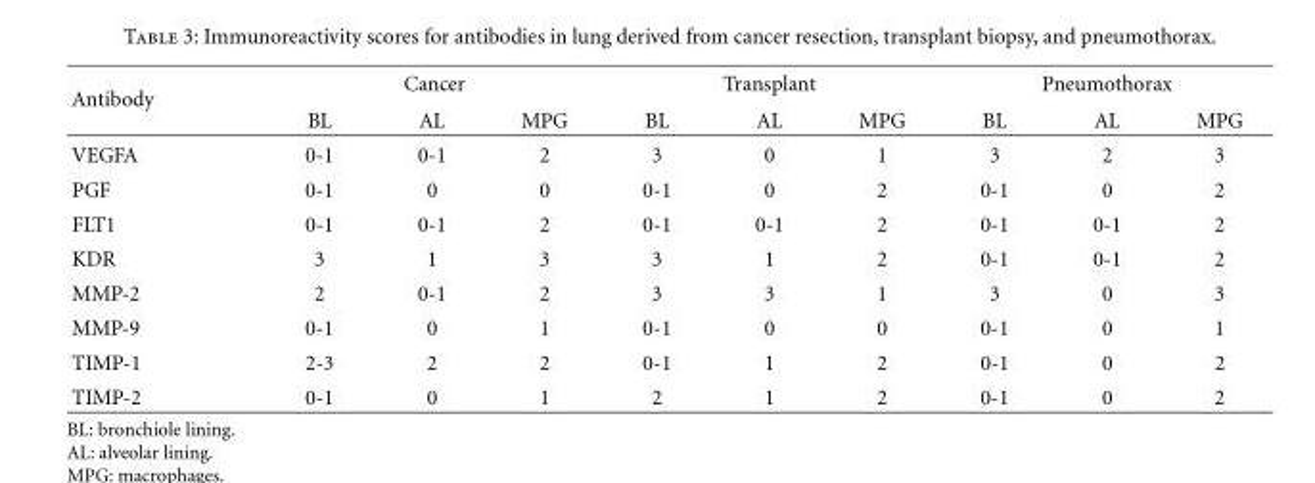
<table><thead><tr><td rowspan="2">Antibody</td><td colspan="3">Cancer</td><td colspan="3">Transplant</td><td colspan="3">Pneumothorax</td></tr><tr><td>BL</td><td>AL</td><td>MPG</td><td>BL</td><td>AL</td><td>MPG</td><td>BL</td><td>AL</td><td>MPG</td></tr></thead><tbody><tr><td>VEGFA</td><td>0-1</td><td>0-1</td><td>2</td><td>3</td><td>0</td><td>1</td><td>3</td><td>2</td><td>3</td></tr><tr><td>PGF</td><td>0-1</td><td>0</td><td>0</td><td>0-1</td><td>0</td><td>2</td><td>0-1</td><td>0</td><td>2</td></tr><tr><td>FLT1</td><td>0-1</td><td>0-1</td><td>2</td><td>0-1</td><td>0-1</td><td>2</td><td>0-1</td><td>0-1</td><td>2</td></tr><tr><td>KDR</td><td>3</td><td>1</td><td>3</td><td>3</td><td>1</td><td>2</td><td>0-1</td><td>0-1</td><td>2</td></tr><tr><td>MMP-2</td><td>2</td><td>0-1</td><td>2</td><td>3</td><td>3</td><td>1</td><td>3</td><td>0</td><td>3</td></tr><tr><td>MMP-9</td><td>0-1</td><td>0</td><td>1</td><td>0-1</td><td>0</td><td>0</td><td>0-1</td><td>0</td><td>1</td></tr><tr><td>TIMP-1</td><td>2-3</td><td>2</td><td>2</td><td>0-1</td><td>1</td><td>2</td><td>0-1</td><td>0</td><td>2</td></tr><tr><td>TIMP-2</td><td>0-1</td><td>0</td><td>1</td><td>2</td><td>1</td><td>2</td><td>0-1</td><td>0</td><td>2</td></tr></tbody></table>